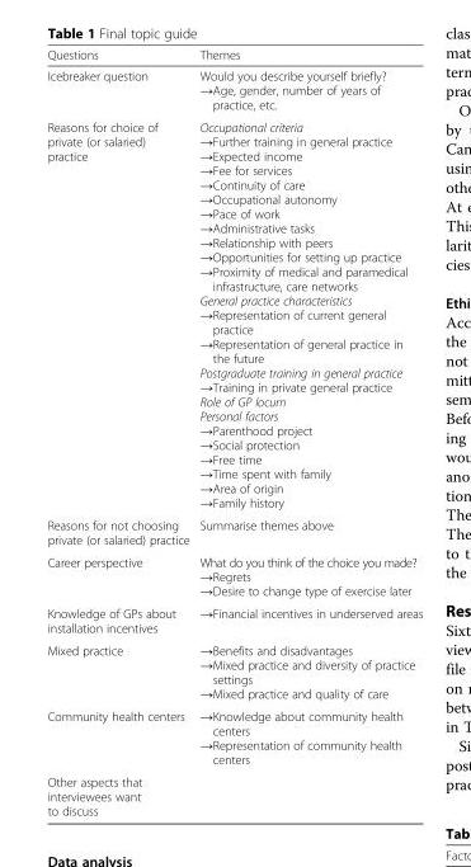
<table><thead><tr><td>Questions</td><td>Themes</td></tr></thead><tbody><tr><td>Icebreaker question</td><td>Would you describe yourself briefly? →Age, gender, number of years of practice, etc.</td></tr><tr><td>Reasons for choice of private (or salaried) practice</td><td>Occupational criteria →Further training in general practice →Expected income →Fee for services →Continuity of care →Occupational autonomy →Pace of work →Administrative tasks →Relationship with peers →Opportunities for setting up practice →Proximity of medical and paramedical infrastructure, care networks General practice characteristics →Representation of current general practice →Representation of general practice in the future Postgraduate training in general practice →Training in private general practice Role of GP locum Personal factors →Parenthood project →Social protection →Free time →Time spent with family →Area of origin →Family history</td></tr><tr><td>Reasons for not choosing private (or salaried) practice</td><td>Summarise themes above</td></tr><tr><td>Career perspective</td><td>What do you think of the choice you made? →Regrets →Desire to change type of exercise later</td></tr><tr><td>Knowledge of GPs about installation incentives</td><td>→Financial incentives in underserved areas</td></tr><tr><td>Mixed practice</td><td>→Benefits and disadvantages →Mixed practice and diversity of practice settings →Mixed practice and quality of care</td></tr><tr><td>Community health centers</td><td>→Knowledge about community health centers →Representation of community health centers</td></tr><tr><td>Other aspects that interviewees want to discuss</td><td></td></tr></tbody></table>